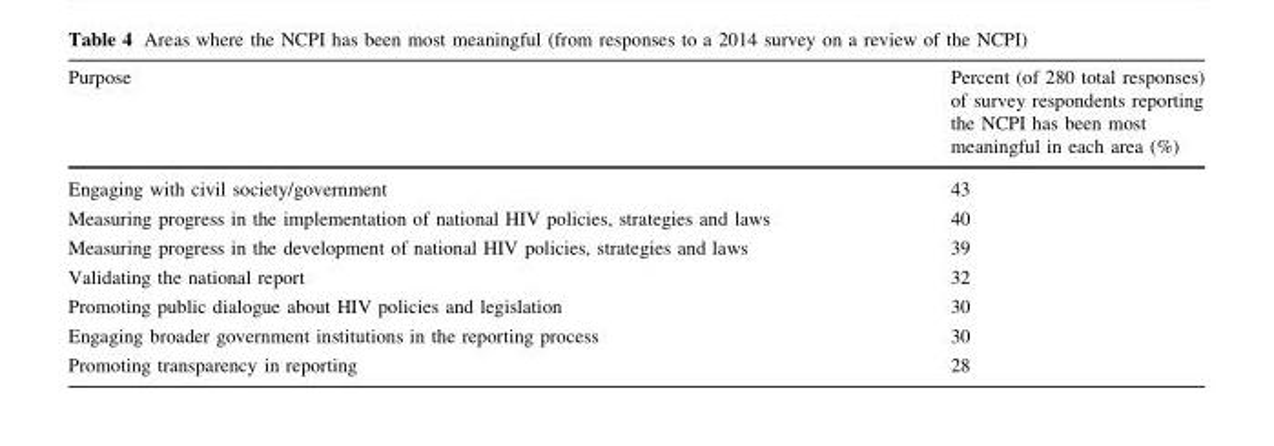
<table><thead><tr><td>Purpose</td><td>Percent (of 280 total responses) of survey respondents reporting the NCPI has been most meaningful in each area (%)</td></tr></thead><tbody><tr><td>Engaging with civil society/government</td><td>43</td></tr><tr><td>Measuring progress in the implementation of national HIV policies, strategies and laws</td><td>40</td></tr><tr><td>Measuring progress in the development of national HIV policies, strategies and laws</td><td>39</td></tr><tr><td>Validating the national report</td><td>32</td></tr><tr><td>Promoting public dialogue about HIV policies and legislation</td><td>30</td></tr><tr><td>Engaging broader government institutions in the reporting process</td><td>30</td></tr><tr><td>Promoting transparency in reporting</td><td>28</td></tr></tbody></table>